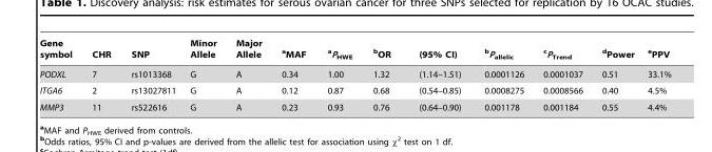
<table><thead><tr><td>Gene symbol</td><td>CHR</td><td>SNP</td><td>Minor Allele</td><td>Major Allele</td><td>aMAF</td><td>aP<sub>HWE</sub></td><td>bOR</td><td>(95% CI)</td><td>bP<sub>allelic</sub></td><td>cP<sub>Trend</sub></td><td>dPower</td><td>ePPV</td></tr></thead><tbody><tr><td>PODXL</td><td>7</td><td>rs1013368</td><td>G</td><td>A</td><td>0.34</td><td>1.00</td><td>1.32</td><td>(1.14–1.51)</td><td>0.0001126</td><td>0.0001037</td><td>0.51</td><td>33.1%</td></tr><tr><td>ITGA6</td><td>2</td><td>rs13027811</td><td>G</td><td>A</td><td>0.12</td><td>0.87</td><td>0.68</td><td>(0.54–0.85)</td><td>0.0008275</td><td>0.0008566</td><td>0.40</td><td>4.5%</td></tr><tr><td>MMP3</td><td>11</td><td>rs522616</td><td>G</td><td>A</td><td>0.23</td><td>0.93</td><td>0.76</td><td>(0.64–0.90)</td><td>0.001178</td><td>0.001184</td><td>0.55</td><td>4.4%</td></tr></tbody></table>